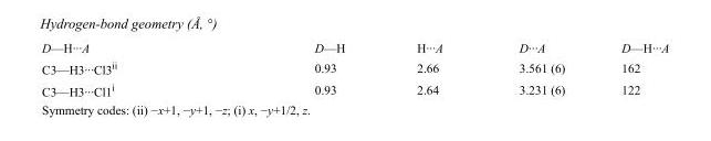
<table><tbody><tr><td>D—H···A</td><td>D—H</td><td>H···A</td><td>D···A</td><td>D—H···A</td></tr><tr><td>C3—H3···Cl3<sup>ii</sup></td><td>0.93</td><td>2.66</td><td>3.561 (6)</td><td>162</td></tr><tr><td>C3—H3···Cl1<sup>i</sup></td><td>0.93</td><td>2.64</td><td>3.231 (6)</td><td>122</td></tr></tbody></table>